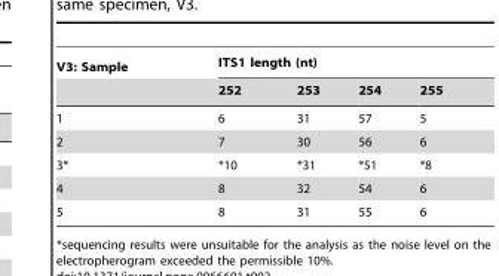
<table><thead><tr><td rowspan="2">V3: Sample</td><td colspan="4">ITS1 length (nt)</td></tr><tr><td>252</td><td>253</td><td>254</td><td>255</td></tr></thead><tbody><tr><td>1</td><td>6</td><td>31</td><td>57</td><td>5</td></tr><tr><td>2</td><td>7</td><td>30</td><td>56</td><td>6</td></tr><tr><td>3*</td><td>*10</td><td>*31</td><td>*51</td><td>*8</td></tr><tr><td>4</td><td>8</td><td>32</td><td>54</td><td>6</td></tr><tr><td>5</td><td>8</td><td>31</td><td>55</td><td>6</td></tr></tbody></table>